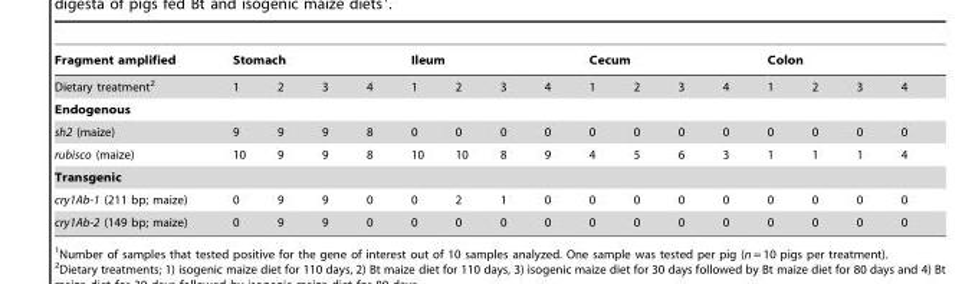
<table><thead><tr><td rowspan="2">Fragment amplified Dietary treatment<sup>2</sup></td><td colspan="4">Stomach</td><td colspan="4">Ileum</td><td colspan="4">Cecum</td><td colspan="4">Colon</td></tr><tr><td>1</td><td>2</td><td>3</td><td>4</td><td>1</td><td>2</td><td>3</td><td>4</td><td>1</td><td>2</td><td>3</td><td>4</td><td>1</td><td>2</td><td>3</td><td>4</td></tr></thead><tbody><tr><td colspan="17">Endogenous</td></tr><tr><td>sh2 (maize)</td><td>9</td><td>9</td><td>9</td><td>8</td><td>0</td><td>0</td><td>0</td><td>0</td><td>0</td><td>0</td><td>0</td><td>0</td><td>0</td><td>0</td><td>0</td><td>0</td></tr><tr><td>rubisco (maize)</td><td>10</td><td>9</td><td>9</td><td>8</td><td>10</td><td>10</td><td>8</td><td>9</td><td>4</td><td>5</td><td>6</td><td>3</td><td>1</td><td>1</td><td>1</td><td>4</td></tr><tr><td colspan="17">Transgenic</td></tr><tr><td>cry1Ab-1 (211 bp; maize)</td><td>0</td><td>9</td><td>9</td><td>0</td><td>0</td><td>2</td><td>1</td><td>0</td><td>0</td><td>0</td><td>0</td><td>0</td><td>0</td><td>0</td><td>0</td><td>0</td></tr><tr><td>cry1Ab-2 (149 bp; maize)</td><td>0</td><td>9</td><td>9</td><td>0</td><td>0</td><td>0</td><td>0</td><td>0</td><td>0</td><td>0</td><td>0</td><td>0</td><td>0</td><td>0</td><td>0</td><td>0</td></tr></tbody></table>